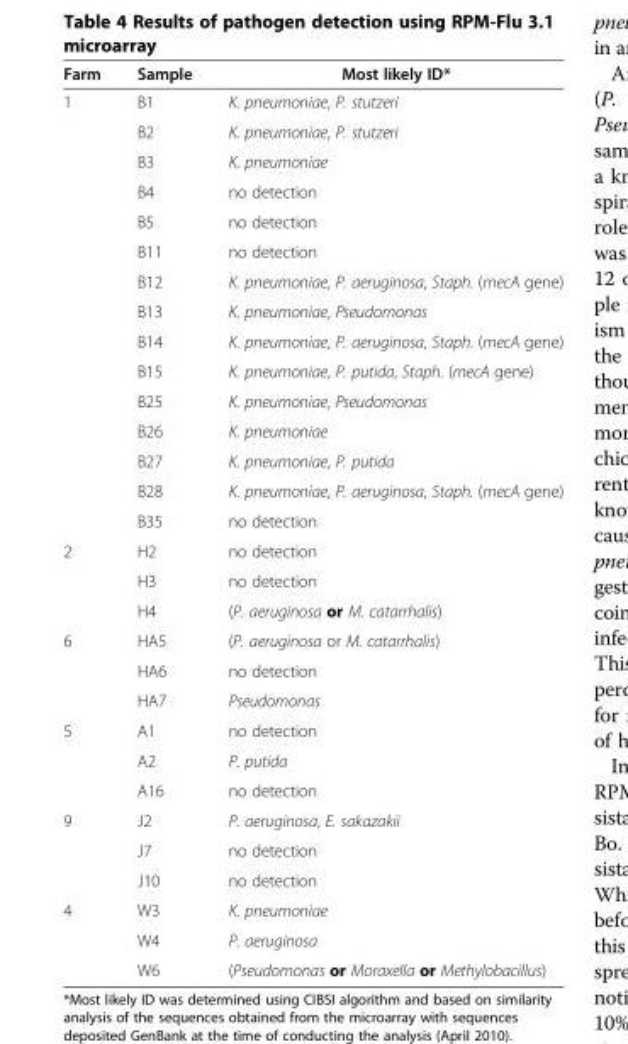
<table><thead><tr><td>Farm</td><td>Sample</td><td>Most likely ID*</td></tr></thead><tbody><tr><td rowspan="15">1</td><td>B1</td><td>K. pneumoniae, P. stutzeri</td></tr><tr><td>B2</td><td>K. pneumoniae, P. stutzeri</td></tr><tr><td>B3</td><td>K. pneumoniae</td></tr><tr><td>B4</td><td>no detection</td></tr><tr><td>B5</td><td>no detection</td></tr><tr><td>B11</td><td>no detection</td></tr><tr><td>B12</td><td>K. pneumoniae, P. aeruginosa, Staph. (mecA gene)</td></tr><tr><td>B13</td><td>K. pneumoniae, Pseudomonas</td></tr><tr><td>B14</td><td>K. pneumoniae, P. aeruginosa, Staph. (mecA gene)</td></tr><tr><td>B15</td><td>K. pneumoniae, P. putida, Staph. (mecA gene)</td></tr><tr><td>B25</td><td>K. pneumoniae, Pseudomonas</td></tr><tr><td>B26</td><td>K. pneumoniae</td></tr><tr><td>B27</td><td>K. pneumoniae, P. putida</td></tr><tr><td>B28</td><td>K. pneumoniae, P. aeruginosa, Staph. (mecA gene)</td></tr><tr><td>B35</td><td>no detection</td></tr><tr><td rowspan="3">2</td><td>H2</td><td>no detection</td></tr><tr><td>H3</td><td>no detection</td></tr><tr><td>H4</td><td>(P. aeruginosa or M. catarrhalis)</td></tr><tr><td rowspan="3">6</td><td>HA5</td><td>(P. aeruginosa or M. catarrhalis)</td></tr><tr><td>HA6</td><td>no detection</td></tr><tr><td>HA7</td><td>Pseudomonas</td></tr><tr><td rowspan="3">5</td><td>A1</td><td>no detection</td></tr><tr><td>A2</td><td>P. putida</td></tr><tr><td>A16</td><td>no detection</td></tr><tr><td rowspan="3">9</td><td>J2</td><td>P. aeruginosa, E. sakazakii</td></tr><tr><td>J7</td><td>no detection</td></tr><tr><td>J10</td><td>no detection</td></tr><tr><td rowspan="3">4</td><td>W3</td><td>K. pneumoniae</td></tr><tr><td>W4</td><td>P. aeruginosa</td></tr><tr><td>W6</td><td>(Pseudomonas or Moraxella or Methylobacillus)</td></tr></tbody></table>